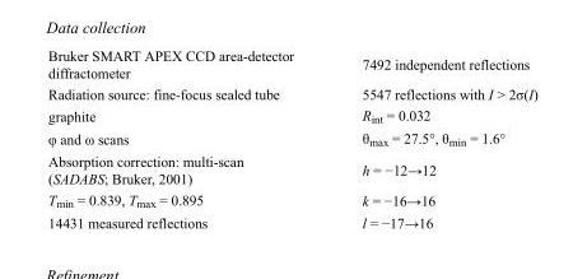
<table><tbody><tr><td>Bruker SMART APEX CCD area-detector diffractometer</td><td>7492 independent reflections</td></tr><tr><td>Radiation source: fine-focus sealed tube</td><td>5547 reflections with I &gt; 2σ(I)</td></tr><tr><td>graphite</td><td>R<sub>int</sub> = 0.032</td></tr><tr><td>φ and ω scans</td><td>θ<sub>max</sub> = 27.5°, θ<sub>min</sub> = 1.6°</td></tr><tr><td>Absorption correction: multi-scan (SADABS; Bruker, 2001)</td><td>h = −12→12</td></tr><tr><td>T<sub>min</sub> = 0.839, T<sub>max</sub> = 0.895</td><td>k = −16→16</td></tr><tr><td>14431 measured reflections</td><td>l = −17→16</td></tr></tbody></table>